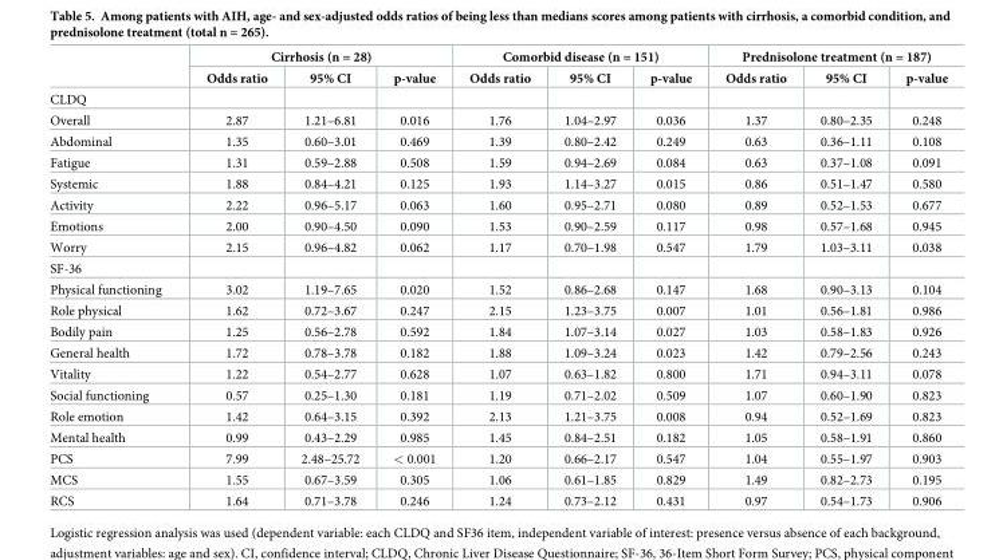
<table><thead><tr><td rowspan="2"></td><td colspan="3">Cirrhosis (n = 28)</td><td colspan="3">Comorbid disease (n = 151)</td><td colspan="3">Prednisolone treatment (n = 187)</td></tr><tr><td>Odds ratio</td><td>95% CI</td><td>p-value</td><td>Odds ratio</td><td>95% CI</td><td>p-value</td><td>Odds ratio</td><td>95% CI</td><td>p-value</td></tr></thead><tbody><tr><td colspan="10">CLDQ</td></tr><tr><td>Overall</td><td>2.87</td><td>1.21–6.81</td><td>0.016</td><td>1.76</td><td>1.04–2.97</td><td>0.036</td><td>1.37</td><td>0.80–2.35</td><td>0.248</td></tr><tr><td>Abdominal</td><td>1.35</td><td>0.60–3.01</td><td>0.469</td><td>1.39</td><td>0.80–2.42</td><td>0.249</td><td>0.63</td><td>0.36–1.11</td><td>0.108</td></tr><tr><td>Fatigue</td><td>1.31</td><td>0.59–2.88</td><td>0.508</td><td>1.59</td><td>0.94–2.69</td><td>0.084</td><td>0.63</td><td>0.37–1.08</td><td>0.091</td></tr><tr><td>Systemic</td><td>1.88</td><td>0.84–4.21</td><td>0.125</td><td>1.93</td><td>1.14–3.27</td><td>0.015</td><td>0.86</td><td>0.51–1.47</td><td>0.580</td></tr><tr><td>Activity</td><td>2.22</td><td>0.96–5.17</td><td>0.063</td><td>1.60</td><td>0.95–2.71</td><td>0.080</td><td>0.89</td><td>0.52–1.53</td><td>0.677</td></tr><tr><td>Emotions</td><td>2.00</td><td>0.90–4.50</td><td>0.090</td><td>1.53</td><td>0.90–2.59</td><td>0.117</td><td>0.98</td><td>0.57–1.68</td><td>0.945</td></tr><tr><td>Worry</td><td>2.15</td><td>0.96–4.82</td><td>0.062</td><td>1.17</td><td>0.70–1.98</td><td>0.547</td><td>1.79</td><td>1.03–3.11</td><td>0.038</td></tr><tr><td colspan="10">SF-36</td></tr><tr><td>Physical functioning</td><td>3.02</td><td>1.19–7.65</td><td>0.020</td><td>1.52</td><td>0.86–2.68</td><td>0.147</td><td>1.68</td><td>0.90–3.13</td><td>0.104</td></tr><tr><td>Role physical</td><td>1.62</td><td>0.72–3.67</td><td>0.247</td><td>2.15</td><td>1.23–3.75</td><td>0.007</td><td>1.01</td><td>0.56–1.81</td><td>0.986</td></tr><tr><td>Bodily pain</td><td>1.25</td><td>0.56–2.78</td><td>0.592</td><td>1.84</td><td>1.07–3.14</td><td>0.027</td><td>1.03</td><td>0.58–1.83</td><td>0.926</td></tr><tr><td>General health</td><td>1.72</td><td>0.78–3.78</td><td>0.182</td><td>1.88</td><td>1.09–3.24</td><td>0.023</td><td>1.42</td><td>0.79–2.56</td><td>0.243</td></tr><tr><td>Vitality</td><td>1.22</td><td>0.54–2.77</td><td>0.628</td><td>1.07</td><td>0.63–1.82</td><td>0.800</td><td>1.71</td><td>0.94–3.11</td><td>0.078</td></tr><tr><td>Social functioning</td><td>0.57</td><td>0.25–1.30</td><td>0.181</td><td>1.19</td><td>0.71–2.02</td><td>0.509</td><td>1.07</td><td>0.60–1.90</td><td>0.823</td></tr><tr><td>Role emotion</td><td>1.42</td><td>0.64–3.15</td><td>0.392</td><td>2.13</td><td>1.21–3.75</td><td>0.008</td><td>0.94</td><td>0.52–1.69</td><td>0.823</td></tr><tr><td>Mental health</td><td>0.99</td><td>0.43–2.29</td><td>0.985</td><td>1.45</td><td>0.84–2.51</td><td>0.182</td><td>1.05</td><td>0.58–1.91</td><td>0.860</td></tr><tr><td>PCS</td><td>7.99</td><td>2.48–25.72</td><td>&lt; 0.001</td><td>1.20</td><td>0.66–2.17</td><td>0.547</td><td>1.04</td><td>0.55–1.97</td><td>0.903</td></tr><tr><td>MCS</td><td>1.55</td><td>0.67–3.59</td><td>0.305</td><td>1.06</td><td>0.61–1.85</td><td>0.829</td><td>1.49</td><td>0.82–2.73</td><td>0.195</td></tr><tr><td>RCS</td><td>1.64</td><td>0.71–3.78</td><td>0.246</td><td>1.24</td><td>0.73–2.12</td><td>0.431</td><td>0.97</td><td>0.54–1.73</td><td>0.906</td></tr></tbody></table>